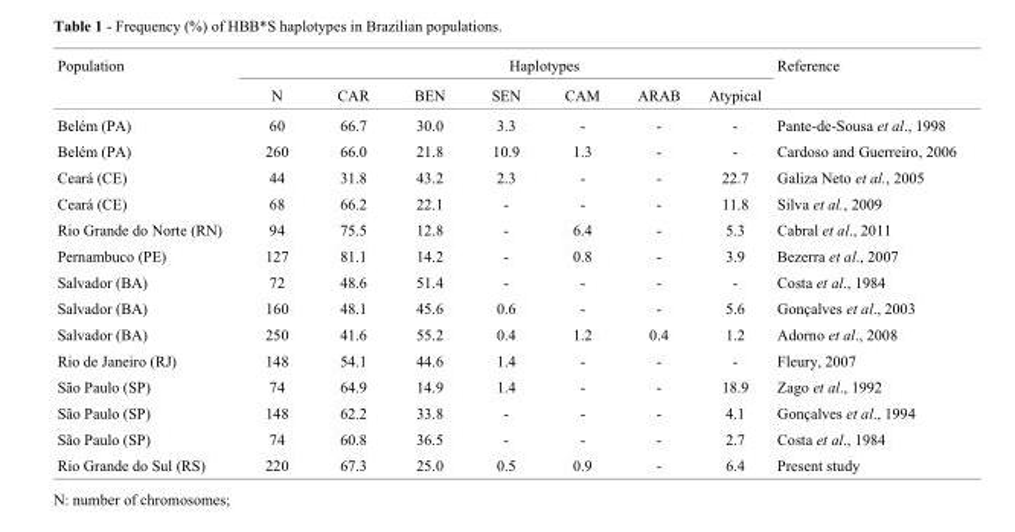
<table><thead><tr><td rowspan="2">Population</td><td colspan="7">Haplotypes</td><td rowspan="2">Reference</td></tr><tr><td>N</td><td>CAR</td><td>BEN</td><td>SEN</td><td>CAM</td><td>ARAB</td><td>Atypical</td></tr></thead><tbody><tr><td>Belém (PA)</td><td>60</td><td>66.7</td><td>30.0</td><td>3.3</td><td>-</td><td>-</td><td>-</td><td>Pante-de-Sousa et al., 1998</td></tr><tr><td>Belém (PA)</td><td>260</td><td>66.0</td><td>21.8</td><td>10.9</td><td>1.3</td><td>-</td><td>-</td><td>Cardoso and Guerreiro, 2006</td></tr><tr><td>Ceará (CE)</td><td>44</td><td>31.8</td><td>43.2</td><td>2.3</td><td>-</td><td>-</td><td>22.7</td><td>Galiza Neto et al., 2005</td></tr><tr><td>Ceará (CE)</td><td>68</td><td>66.2</td><td>22.1</td><td>-</td><td>-</td><td>-</td><td>11.8</td><td>Silva et al., 2009</td></tr><tr><td>Rio Grande do Norte (RN)</td><td>94</td><td>75.5</td><td>12.8</td><td>-</td><td>6.4</td><td>-</td><td>5.3</td><td>Cabral et al., 2011</td></tr><tr><td>Pernambuco (PE)</td><td>127</td><td>81.1</td><td>14.2</td><td>-</td><td>0.8</td><td>-</td><td>3.9</td><td>Bezerra et al., 2007</td></tr><tr><td>Salvador (BA)</td><td>72</td><td>48.6</td><td>51.4</td><td>-</td><td>-</td><td>-</td><td>-</td><td>Costa et al., 1984</td></tr><tr><td>Salvador (BA)</td><td>160</td><td>48.1</td><td>45.6</td><td>0.6</td><td>-</td><td>-</td><td>5.6</td><td>Gonçalves et al., 2003</td></tr><tr><td>Salvador (BA)</td><td>250</td><td>41.6</td><td>55.2</td><td>0.4</td><td>1.2</td><td>0.4</td><td>1.2</td><td>Adorno et al., 2008</td></tr><tr><td>Rio de Janeiro (RJ)</td><td>148</td><td>54.1</td><td>44.6</td><td>1.4</td><td>-</td><td>-</td><td>-</td><td>Fleury, 2007</td></tr><tr><td>São Paulo (SP)</td><td>74</td><td>64.9</td><td>14.9</td><td>1.4</td><td>-</td><td>-</td><td>18.9</td><td>Zago et al., 1992</td></tr><tr><td>São Paulo (SP)</td><td>148</td><td>62.2</td><td>33.8</td><td>-</td><td>-</td><td>-</td><td>4.1</td><td>Gonçalves et al., 1994</td></tr><tr><td>São Paulo (SP)</td><td>74</td><td>60.8</td><td>36.5</td><td>-</td><td>-</td><td>-</td><td>2.7</td><td>Costa et al., 1984</td></tr><tr><td>Rio Grande do Sul (RS)</td><td>220</td><td>67.3</td><td>25.0</td><td>0.5</td><td>0.9</td><td>-</td><td>6.4</td><td>Present study</td></tr></tbody></table>